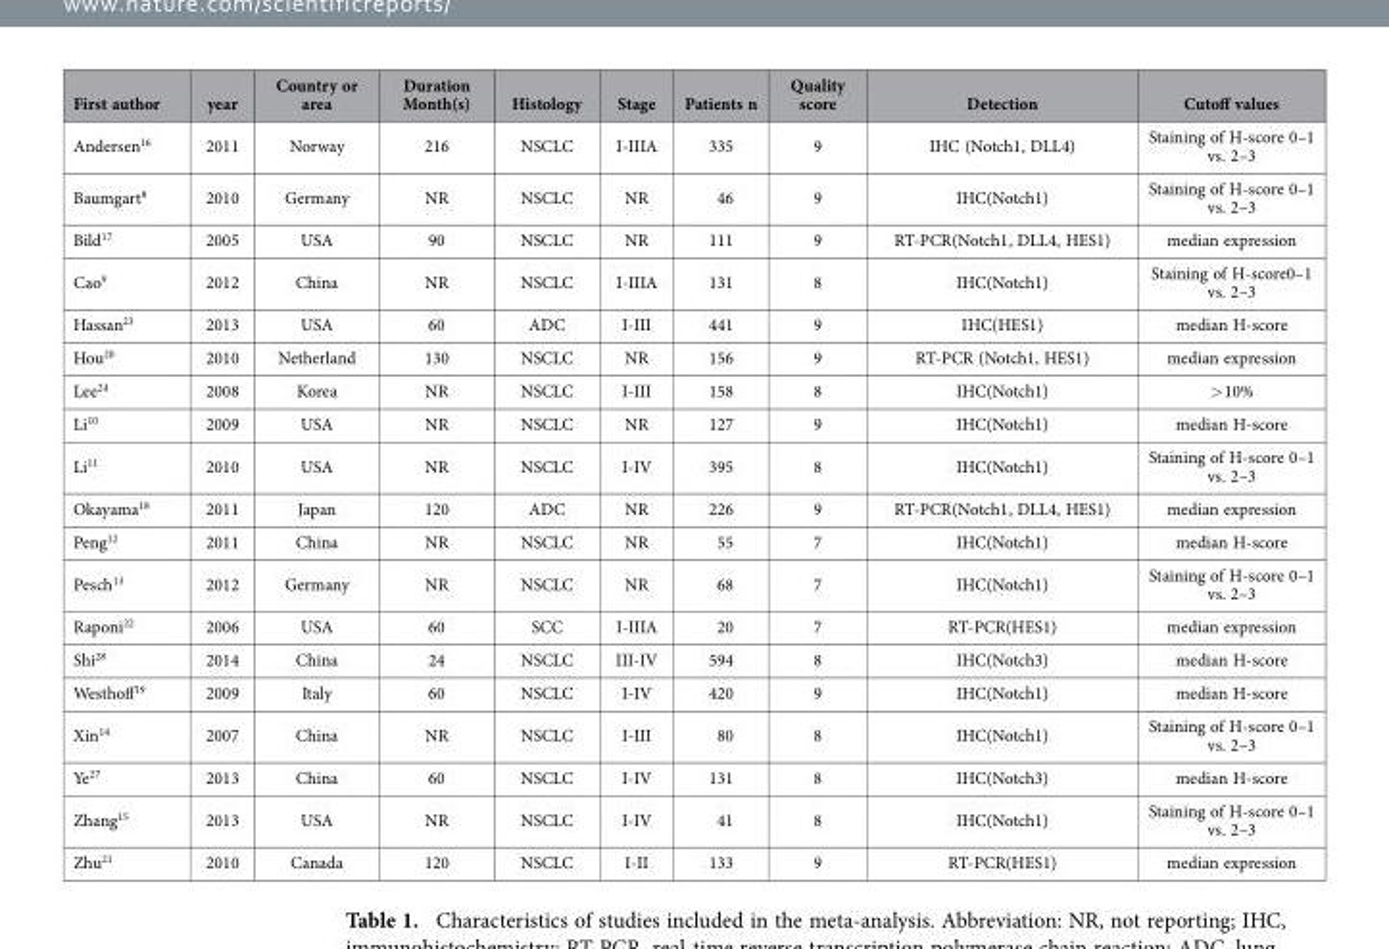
<table><thead><tr><td>First author</td><td>year</td><td>Country or area</td><td>Duration Month(s)</td><td>Histology</td><td>Stage</td><td>Patients n</td><td>Quality score</td><td>Detection</td><td>Cutoff values</td></tr></thead><tbody><tr><td>Andersen<sup>16</sup></td><td>2011</td><td>Norway</td><td>216</td><td>NSCLC</td><td>I-IIIA</td><td>335</td><td>9</td><td>IHC (Notch1, DLL4)</td><td>Staining of H-score 0–1 vs. 2–3</td></tr><tr><td>Baumgart<sup>8</sup></td><td>2010</td><td>Germany</td><td>NR</td><td>NSCLC</td><td>NR</td><td>46</td><td>9</td><td>IHC(Notch1)</td><td>Staining of H-score 0–1 vs. 2–3</td></tr><tr><td>Bild<sup>17</sup></td><td>2005</td><td>USA</td><td>90</td><td>NSCLC</td><td>NR</td><td>111</td><td>9</td><td>RT-PCR(Notch1, DLL4, HES1)</td><td>median expression</td></tr><tr><td>Cao<sup>9</sup></td><td>2012</td><td>China</td><td>NR</td><td>NSCLC</td><td>I-IIIA</td><td>131</td><td>8</td><td>IHC(Notch1)</td><td>Staining of H-score0–1 vs. 2–3</td></tr><tr><td>Hassan<sup>23</sup></td><td>2013</td><td>USA</td><td>60</td><td>ADC</td><td>I-III</td><td>441</td><td>9</td><td>IHC(HES1)</td><td>median H-score</td></tr><tr><td>Hou<sup>20</sup></td><td>2010</td><td>Netherland</td><td>130</td><td>NSCLC</td><td>NR</td><td>156</td><td>9</td><td>RT-PCR (Notch1, HES1)</td><td>median expression</td></tr><tr><td>Lee<sup>24</sup></td><td>2008</td><td>Korea</td><td>NR</td><td>NSCLC</td><td>I-III</td><td>158</td><td>8</td><td>IHC(Notch1)</td><td>&gt; 10%</td></tr><tr><td>Li<sup>10</sup></td><td>2009</td><td>USA</td><td>NR</td><td>NSCLC</td><td>NR</td><td>127</td><td>9</td><td>IHC(Notch1)</td><td>median H-score</td></tr><tr><td>Li<sup>11</sup></td><td>2010</td><td>USA</td><td>NR</td><td>NSCLC</td><td>I-IV</td><td>395</td><td>8</td><td>IHC(Notch1)</td><td>Staining of H-score 0–1 vs. 2–3</td></tr><tr><td>Okayama<sup>18</sup></td><td>2011</td><td>Japan</td><td>120</td><td>ADC</td><td>NR</td><td>226</td><td>9</td><td>RT-PCR(Notch1, DLL4, HES1)</td><td>median expression</td></tr><tr><td>Peng<sup>12</sup></td><td>2011</td><td>China</td><td>NR</td><td>NSCLC</td><td>NR</td><td>55</td><td>7</td><td>IHC(Notch1)</td><td>median H-score</td></tr><tr><td>Pesch<sup>13</sup></td><td>2012</td><td>Germany</td><td>NR</td><td>NSCLC</td><td>NR</td><td>68</td><td>7</td><td>IHC(Notch1)</td><td>Staining of H-score 0–1 vs. 2–3</td></tr><tr><td>Raponi<sup>22</sup></td><td>2006</td><td>USA</td><td>60</td><td>SCC</td><td>I-IIIA</td><td>20</td><td>7</td><td>RT-PCR(HES1)</td><td>median expression</td></tr><tr><td>Shi<sup>28</sup></td><td>2014</td><td>China</td><td>24</td><td>NSCLC</td><td>III-IV</td><td>594</td><td>8</td><td>IHC(Notch3)</td><td>median H-score</td></tr><tr><td>Westhoff<sup>19</sup></td><td>2009</td><td>Italy</td><td>60</td><td>NSCLC</td><td>I-IV</td><td>420</td><td>9</td><td>IHC(Notch1)</td><td>median H-score</td></tr><tr><td>Xin<sup>14</sup></td><td>2007</td><td>China</td><td>NR</td><td>NSCLC</td><td>I-III</td><td>80</td><td>8</td><td>IHC(Notch1)</td><td>Staining of H-score 0–1 vs. 2–3</td></tr><tr><td>Ye<sup>27</sup></td><td>2013</td><td>China</td><td>60</td><td>NSCLC</td><td>I-IV</td><td>131</td><td>8</td><td>IHC(Notch3)</td><td>median H-score</td></tr><tr><td>Zhang<sup>15</sup></td><td>2013</td><td>USA</td><td>NR</td><td>NSCLC</td><td>I-IV</td><td>41</td><td>8</td><td>IHC(Notch1)</td><td>Staining of H-score 0–1 vs. 2–3</td></tr><tr><td>Zhu<sup>21</sup></td><td>2010</td><td>Canada</td><td>120</td><td>NSCLC</td><td>I-II</td><td>133</td><td>9</td><td>RT-PCR(HES1)</td><td>median expression</td></tr></tbody></table>